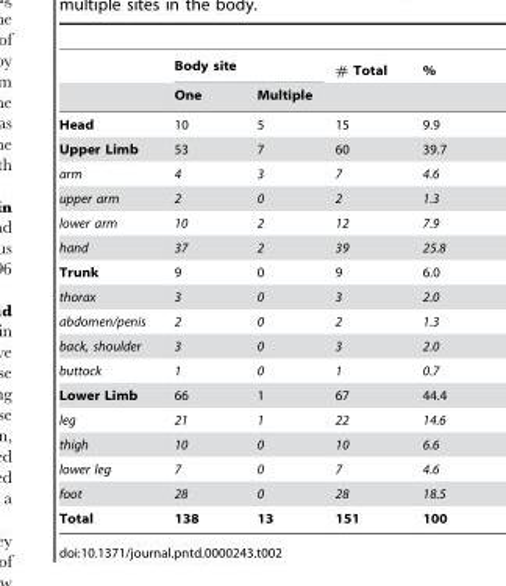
<table><thead><tr><td rowspan="2"></td><td colspan="2">Body site</td><td rowspan="2"># Total</td><td rowspan="2">%</td></tr><tr><td>One</td><td>Multiple</td></tr></thead><tbody><tr><td>Head</td><td>10</td><td>5</td><td>15</td><td>9.9</td></tr><tr><td>Upper Limb</td><td>53</td><td>7</td><td>60</td><td>39.7</td></tr><tr><td>arm</td><td>4</td><td>3</td><td>7</td><td>4.6</td></tr><tr><td>upper arm</td><td>2</td><td>0</td><td>2</td><td>1.3</td></tr><tr><td>lower arm</td><td>10</td><td>2</td><td>12</td><td>7.9</td></tr><tr><td>hand</td><td>37</td><td>2</td><td>39</td><td>25.8</td></tr><tr><td>Trunk</td><td>9</td><td>0</td><td>9</td><td>6.0</td></tr><tr><td>thorax</td><td>3</td><td>0</td><td>3</td><td>2.0</td></tr><tr><td>abdomen/penis</td><td>2</td><td>0</td><td>2</td><td>1.3</td></tr><tr><td>back, shoulder</td><td>3</td><td>0</td><td>3</td><td>2.0</td></tr><tr><td>buttock</td><td>1</td><td>0</td><td>1</td><td>0.7</td></tr><tr><td>Lower Limb</td><td>66</td><td>1</td><td>67</td><td>44.4</td></tr><tr><td>leg</td><td>21</td><td>1</td><td>22</td><td>14.6</td></tr><tr><td>thigh</td><td>10</td><td>0</td><td>10</td><td>6.6</td></tr><tr><td>lower leg</td><td>7</td><td>0</td><td>7</td><td>4.6</td></tr><tr><td>foot</td><td>28</td><td>0</td><td>28</td><td>18.5</td></tr><tr><td>Total</td><td>138</td><td>13</td><td>151</td><td>100</td></tr></tbody></table>